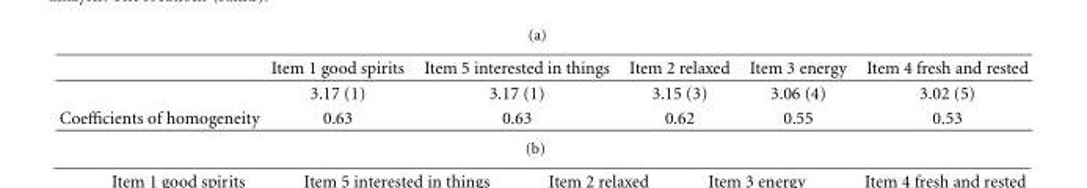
<table><thead><tr><td></td><td>Item 1 good spirits</td><td>Item 5 interested in things</td><td>Item 2 relaxed</td><td>Item 3 energy</td><td>Item 4 fresh and rested</td></tr></thead><tbody><tr><td></td><td>3.17 (1)</td><td>3.17 (1)</td><td>3.15 (3)</td><td>3.06 (4)</td><td>3.02 (5)</td></tr><tr><td>Coefficients of homogeneity</td><td>0.63</td><td>0.63</td><td>0.62</td><td>0.55</td><td>0.53</td></tr></tbody></table>